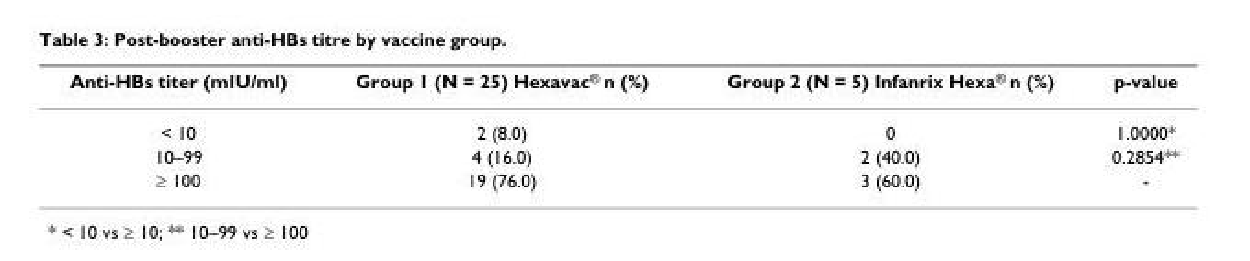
<table><thead><tr><td>Anti-HBs titer (mIU/ml)</td><td>Group 1 (N = 25) Hexavac<sup>®</sup> n (%)</td><td>Group 2 (N = 5) Infanrix Hexa<sup>®</sup> n (%)</td><td>p-value</td></tr></thead><tbody><tr><td>&lt; 10</td><td>2 (8.0)</td><td>0</td><td>1.0000*</td></tr><tr><td>10–99</td><td>4 (16.0)</td><td>2 (40.0)</td><td>0.2854**</td></tr><tr><td>≥ 100</td><td>19 (76.0)</td><td>3 (60.0)</td><td>-</td></tr></tbody></table>